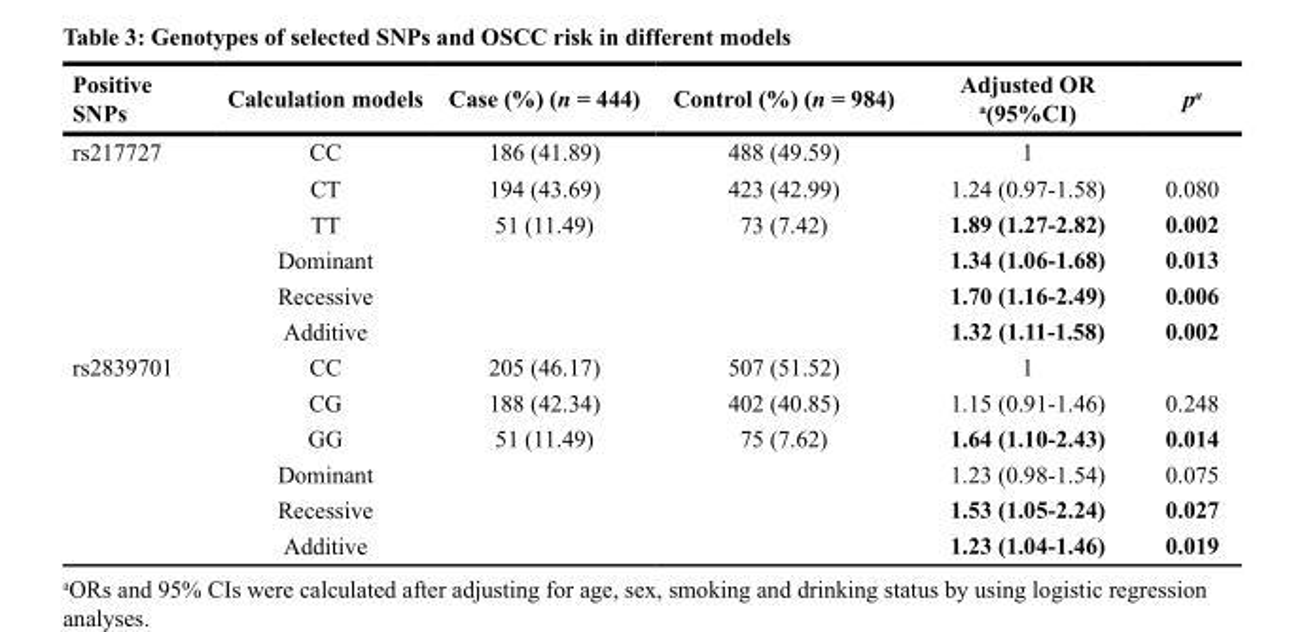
<table><thead><tr><td>Positive SNPs</td><td>Calculation models</td><td>Case (%) (n = 444)</td><td>Control (%) (n = 984)</td><td>Adjusted OR <sup>a</sup>(95%CI)</td><td>p<sup>a</sup></td></tr></thead><tbody><tr><td rowspan="6">rs217727</td><td>CC</td><td>186 (41.89)</td><td>488 (49.59)</td><td>1</td><td></td></tr><tr><td>CT</td><td>194 (43.69)</td><td>423 (42.99)</td><td>1.24 (0.97-1.58)</td><td>0.080</td></tr><tr><td>TT</td><td>51 (11.49)</td><td>73 (7.42)</td><td>1.89 (1.27-2.82)</td><td>0.002</td></tr><tr><td>Dominant</td><td></td><td></td><td>1.34 (1.06-1.68)</td><td>0.013</td></tr><tr><td>Recessive</td><td></td><td></td><td>1.70 (1.16-2.49)</td><td>0.006</td></tr><tr><td>Additive</td><td></td><td></td><td>1.32 (1.11-1.58)</td><td>0.002</td></tr><tr><td rowspan="6">rs2839701</td><td>CC</td><td>205 (46.17)</td><td>507 (51.52)</td><td>1</td><td></td></tr><tr><td>CG</td><td>188 (42.34)</td><td>402 (40.85)</td><td>1.15 (0.91-1.46)</td><td>0.248</td></tr><tr><td>GG</td><td>51 (11.49)</td><td>75 (7.62)</td><td>1.64 (1.10-2.43)</td><td>0.014</td></tr><tr><td>Dominant</td><td></td><td></td><td>1.23 (0.98-1.54)</td><td>0.075</td></tr><tr><td>Recessive</td><td></td><td></td><td>1.53 (1.05-2.24)</td><td>0.027</td></tr><tr><td>Additive</td><td></td><td></td><td>1.23 (1.04-1.46)</td><td>0.019</td></tr></tbody></table>